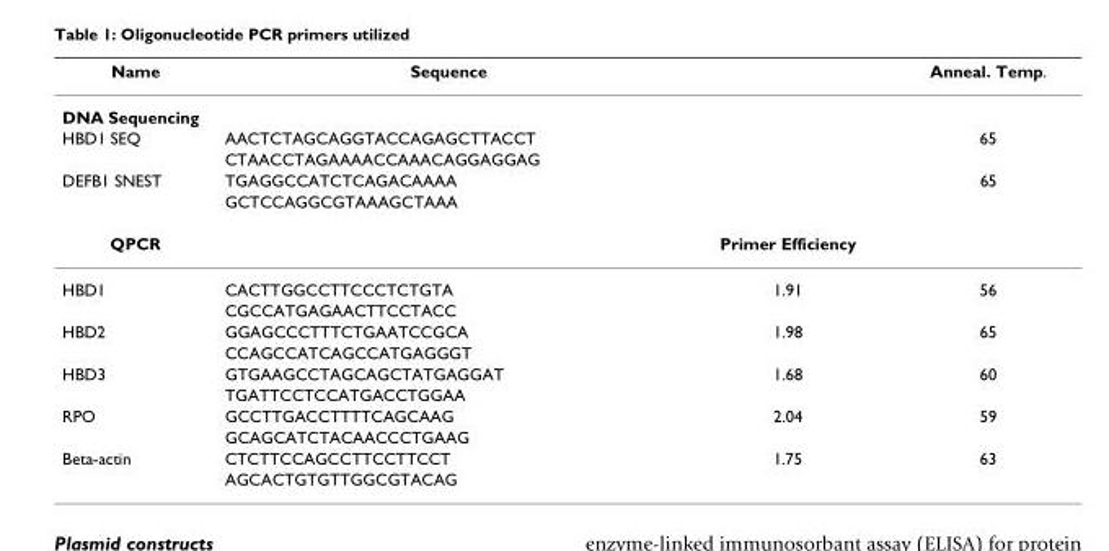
<table><thead><tr><td>Name</td><td>Sequence</td><td></td><td>Anneal. Temp.</td></tr></thead><tbody><tr><td colspan="4">DNA Sequencing</td></tr><tr><td rowspan="2">HBD1 SEQ</td><td>AACTCTAGCAGGTACCAGAGCTTACCT</td><td></td><td>65</td></tr><tr><td>CTAACCTAGAAAACCAAACAGGAGGAG</td><td></td><td></td></tr><tr><td rowspan="2">DEFB1 SNEST</td><td>TGAGGCCATCTCAGACAAAA</td><td></td><td>65</td></tr><tr><td>GCTCCAGGCGTAAAGCTAAA</td><td></td><td></td></tr><tr><td>QPCR</td><td></td><td>Primer Efficiency</td><td></td></tr><tr><td rowspan="2">HBD1</td><td>CACTTGGCCTTCCCTCTGTA</td><td>1.91</td><td>56</td></tr><tr><td>CGCCATGAGAACTTCCTACC</td><td></td><td></td></tr><tr><td rowspan="2">HBD2</td><td>GGAGCCCTTTCTGAATCCGCA</td><td>1.98</td><td>65</td></tr><tr><td>CCAGCCATCAGCCATGAGGGT</td><td></td><td></td></tr><tr><td rowspan="2">HBD3</td><td>GTGAAGCCTAGCAGCTATGAGGAT</td><td>1.68</td><td>60</td></tr><tr><td>TGATTCCTCCATGACCTGGAA</td><td></td><td></td></tr><tr><td rowspan="2">RPO</td><td>GCCTTGACCTTTTCAGCAAG</td><td>2.04</td><td>59</td></tr><tr><td>GCAGCATCTACAACCCTGAAG</td><td></td><td></td></tr><tr><td rowspan="2">Beta-actin</td><td>CTCTTCCAGCCTTCCTTCCT</td><td>1.75</td><td>63</td></tr><tr><td>AGCACTGTGTTGGCGTACAG</td><td></td><td></td></tr></tbody></table>